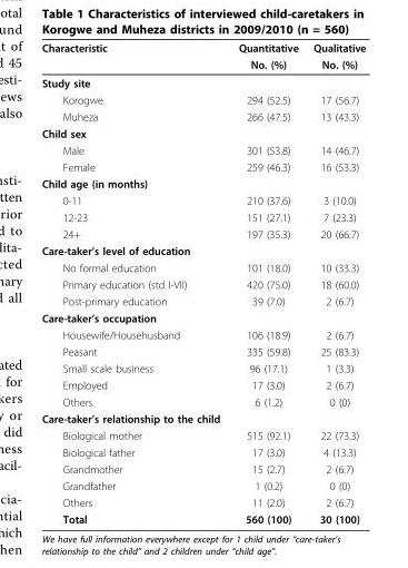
<table><thead><tr><td rowspan="2">Characteristic</td><td rowspan="2">Quantitative No. (%)</td><td rowspan="2">Qualitative No. (%)</td></tr><tr></tr></thead><tbody><tr><td colspan="3">Study site</td></tr><tr><td>Korogwe</td><td>294 (52.5)</td><td>17 (56.7)</td></tr><tr><td>Muheza</td><td>266 (47.5)</td><td>13 (43.3)</td></tr><tr><td colspan="3">Child sex</td></tr><tr><td>Male</td><td>301 (53.8)</td><td>14 (46.7)</td></tr><tr><td>Female</td><td>259 (46.3)</td><td>16 (53.3)</td></tr><tr><td colspan="3">Child age (in months)</td></tr><tr><td>0-11</td><td>210 (37.6)</td><td>3 (10.0)</td></tr><tr><td>12-23</td><td>151 (27.1)</td><td>7 (23.3)</td></tr><tr><td>24+</td><td>197 (35.3)</td><td>20 (66.7)</td></tr><tr><td colspan="3">Care-taker’s level of education</td></tr><tr><td>No formal education</td><td>101 (18.0)</td><td>10 (33.3)</td></tr><tr><td>Primary education (std I-VII)</td><td>420 (75.0)</td><td>18 (60.0)</td></tr><tr><td>Post-primary education</td><td>39 (7.0)</td><td>2 (6.7)</td></tr><tr><td colspan="3">Care-taker’s occupation</td></tr><tr><td>Housewife/Househusband</td><td>106 (18.9)</td><td>2 (6.7)</td></tr><tr><td>Peasant</td><td>335 (59.8)</td><td>25 (83.3)</td></tr><tr><td>Small scale business</td><td>96 (17.1)</td><td>1 (3.3)</td></tr><tr><td>Employed</td><td>17 (3.0)</td><td>2 (6.7)</td></tr><tr><td>Others</td><td>6 (1.2)</td><td>0 (0)</td></tr><tr><td colspan="3">Care-taker’s relationship to the child</td></tr><tr><td>Biological mother</td><td>515 (92.1)</td><td>22 (73.3)</td></tr><tr><td>Biological father</td><td>17 (3.0)</td><td>4 (13.3)</td></tr><tr><td>Grandmother</td><td>15 (2.7)</td><td>2 (6.7)</td></tr><tr><td>Grandfather</td><td>1 (0.2)</td><td>0 (0)</td></tr><tr><td>Others</td><td>11 (2.0)</td><td>2 (6.7)</td></tr><tr><td>Total</td><td>560 (100)</td><td>30 (100)</td></tr></tbody></table>